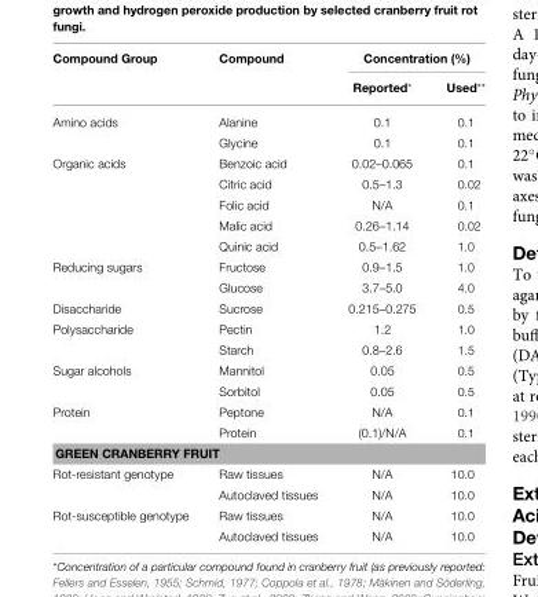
<table><thead><tr><td rowspan="2">Compound Group</td><td rowspan="2">Compound</td><td colspan="2">Concentration (%)</td></tr><tr><td>Reported*</td><td>Used**</td></tr></thead><tbody><tr><td rowspan="2">Amino acids</td><td>Alanine</td><td>0.1</td><td>0.1</td></tr><tr><td>Glycine</td><td>0.1</td><td>0.1</td></tr><tr><td rowspan="5">Organic acids</td><td>Benzoic acid</td><td>0.02–0.065</td><td>0.1</td></tr><tr><td>Citric acid</td><td>0.5–1.3</td><td>0.02</td></tr><tr><td>Folic acid</td><td>N/A</td><td>0.1</td></tr><tr><td>Malic acid</td><td>0.26–1.14</td><td>0.02</td></tr><tr><td>Quinic acid</td><td>0.5–1.62</td><td>1.0</td></tr><tr><td rowspan="2">Reducing sugars</td><td>Fructose</td><td>0.9–1.5</td><td>1.0</td></tr><tr><td>Glucose</td><td>3.7–5.0</td><td>4.0</td></tr><tr><td>Disaccharide</td><td>Sucrose</td><td>0.215–0.275</td><td>0.5</td></tr><tr><td rowspan="2">Polysaccharide</td><td>Pectin</td><td>1.2</td><td>1.0</td></tr><tr><td>Starch</td><td>0.8–2.6</td><td>1.5</td></tr><tr><td rowspan="2">Sugar alcohols</td><td>Mannitol</td><td>0.05</td><td>0.5</td></tr><tr><td>Sorbitol</td><td>0.05</td><td>0.5</td></tr><tr><td rowspan="2">Protein</td><td>Peptone</td><td>N/A</td><td>0.1</td></tr><tr><td>Protein</td><td>(0.1)/N/A</td><td>0.1</td></tr><tr><td colspan="4">GREEN CRANBERRY FRUIT</td></tr><tr><td rowspan="2">Rot-resistant genotype</td><td>Raw tissues</td><td>N/A</td><td>10.0</td></tr><tr><td>Autoclaved tissues</td><td>N/A</td><td>10.0</td></tr><tr><td rowspan="2">Rot-susceptible genotype</td><td>Raw tissues</td><td>N/A</td><td>10.0</td></tr><tr><td>Autoclaved tissues</td><td>N/A</td><td>10.0</td></tr></tbody></table>